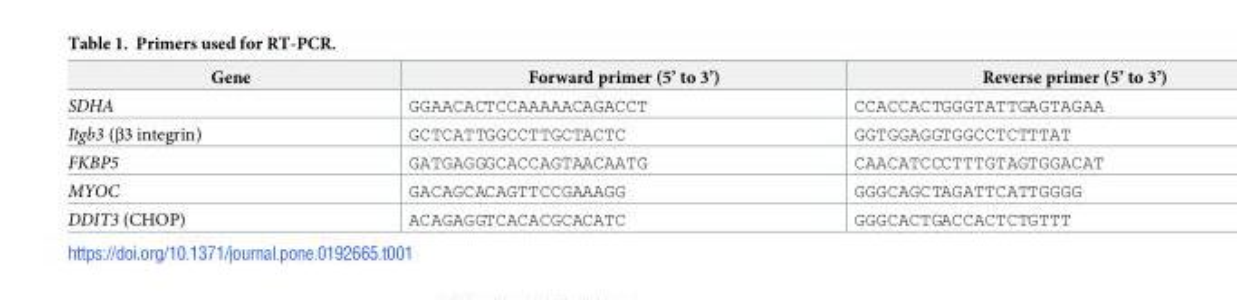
<table><thead><tr><td>Gene</td><td>Forward primer (5’ to 3’)</td><td>Reverse primer (5’ to 3’)</td></tr></thead><tbody><tr><td>SDHA</td><td>GGAACACTCCAAAAACAGACCT</td><td>CCACCACTGGGTATTGAGTAGAA</td></tr><tr><td>Itgb3 (β3 integrin)</td><td>GCTCATTGGCCTTGCTACTC</td><td>GGTGGAGGTGGCCTCTTTAT</td></tr><tr><td>FKBP5</td><td>GATGAGGGCACCAGTAACAATG</td><td>CAACATCCCTTTGTAGTGGACAT</td></tr><tr><td>MYOC</td><td>GACAGCACAGTTCCGAAAGG</td><td>GGGCAGCTAGATTCATTGGGG</td></tr><tr><td>DDIT3 (CHOP)</td><td>ACAGAGGTCACACGCACATC</td><td>GGGCACTGACCACTCTGTTT</td></tr></tbody></table>